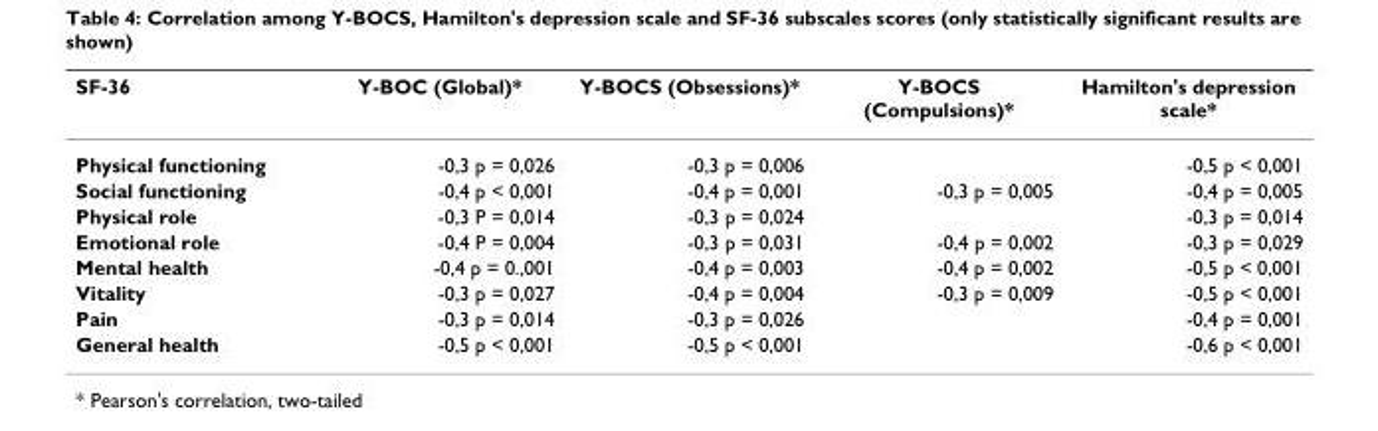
<table><thead><tr><td>SF-36</td><td>Y-BOC (Global)*</td><td>Y-BOCS (Obsessions)*</td><td>Y-BOCS (Compulsions)*</td><td>Hamilton&#x27;s depression scale*</td></tr></thead><tbody><tr><td>Physical functioning</td><td>-0,3 p = 0,026</td><td>-0,3 p = 0,006</td><td></td><td>-0,5 p &lt; 0,001</td></tr><tr><td>Social functioning</td><td>-0,4 p &lt; 0,001</td><td>-0,4 p = 0,001</td><td>-0,3 p = 0,005</td><td>-0,4 p = 0,005</td></tr><tr><td>Physical role</td><td>-0,3 P = 0,014</td><td>-0,3 p = 0,024</td><td></td><td>-0,3 p = 0,014</td></tr><tr><td>Emotional role</td><td>-0,4 P = 0,004</td><td>-0,3 p = 0,031</td><td>-0,4 p = 0,002</td><td>-0,3 p = 0,029</td></tr><tr><td>Mental health</td><td>-0,4 p = 0.,001</td><td>-0,4 p = 0,003</td><td>-0,4 p = 0,002</td><td>-0,5 p &lt; 0,001</td></tr><tr><td>Vitality</td><td>-0,3 p = 0,027</td><td>-0,4 p = 0,004</td><td>-0,3 p = 0,009</td><td>-0,5 p &lt; 0,001</td></tr><tr><td>Pain</td><td>-0,3 p = 0,014</td><td>-0,3 p = 0,026</td><td></td><td>-0,4 p = 0,001</td></tr><tr><td>General health</td><td>-0,5 p &lt; 0,001</td><td>-0,5 p &lt; 0,001</td><td></td><td>-0,6 p &lt; 0,001</td></tr></tbody></table>